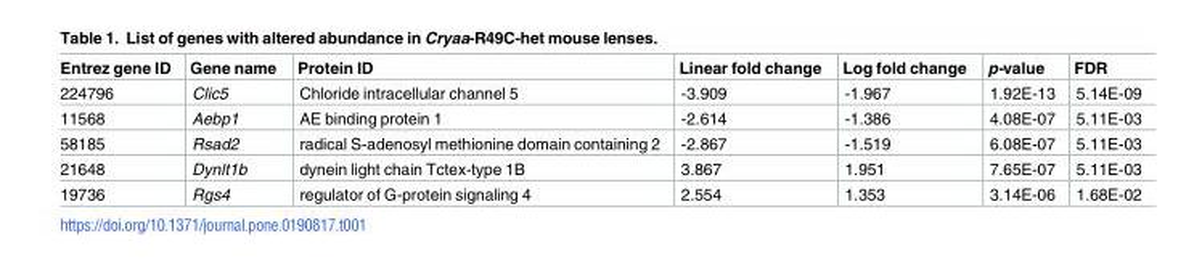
<table><thead><tr><td>Entrez gene ID</td><td>Gene name</td><td>Protein ID</td><td>Linear fold change</td><td>Log fold change</td><td>p-value</td><td>FDR</td></tr></thead><tbody><tr><td>224796</td><td>Clic5</td><td>Chloride intracellular channel 5</td><td>-3.909</td><td>-1.967</td><td>1.92E-13</td><td>5.14E-09</td></tr><tr><td>11568</td><td>Aebp1</td><td>AE binding protein 1</td><td>-2.614</td><td>-1.386</td><td>4.08E-07</td><td>5.11E-03</td></tr><tr><td>58185</td><td>Rsad2</td><td>radical S-adenosyl methionine domain containing 2</td><td>-2.867</td><td>-1.519</td><td>6.08E-07</td><td>5.11E-03</td></tr><tr><td>21648</td><td>Dynlt1b</td><td>dynein light chain Tctex-type 1B</td><td>3.867</td><td>1.951</td><td>7.65E-07</td><td>5.11E-03</td></tr><tr><td>19736</td><td>Rgs4</td><td>regulator of G-protein signaling 4</td><td>2.554</td><td>1.353</td><td>3.14E-06</td><td>1.68E-02</td></tr></tbody></table>